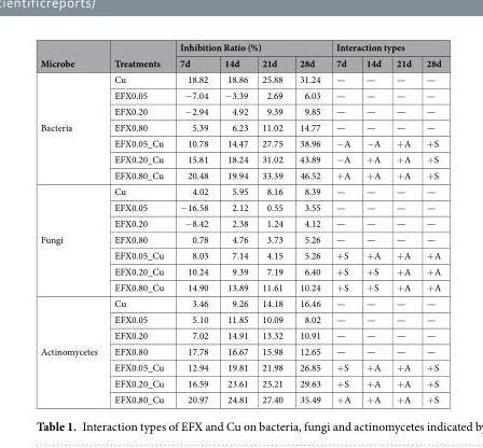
<table><thead><tr><td rowspan="2">Microbe</td><td rowspan="2">Treatments</td><td colspan="4">Inhibition Ratio (%)</td><td colspan="4">Interaction types</td></tr><tr><td>7d</td><td>14d</td><td>21d</td><td>28d</td><td>7d</td><td>14d</td><td>21d</td><td>28d</td></tr></thead><tbody><tr><td rowspan="7">Bacteria</td><td>Cu</td><td>18.82</td><td>18.86</td><td>25.88</td><td>31.24</td><td>—</td><td>—</td><td>—</td><td>—</td></tr><tr><td>EFX0.05</td><td>−7.04</td><td>−3.39</td><td>2.69</td><td>6.03</td><td>—</td><td>—</td><td>—</td><td>—</td></tr><tr><td>EFX0.20</td><td>−2.94</td><td>4.92</td><td>9.39</td><td>9.85</td><td>—</td><td>—</td><td>—</td><td>—</td></tr><tr><td>EFX0.80</td><td>5.39</td><td>6.23</td><td>11.02</td><td>14.77</td><td>—</td><td>—</td><td>—</td><td>—</td></tr><tr><td>EFX0.05_Cu</td><td>10.78</td><td>14.47</td><td>27.75</td><td>38.96</td><td>−A</td><td>−A</td><td>+A</td><td>+S</td></tr><tr><td>EFX0.20_Cu</td><td>15.81</td><td>18.24</td><td>31.02</td><td>43.89</td><td>−A</td><td>+A</td><td>+A</td><td>+S</td></tr><tr><td>EFX0.80_Cu</td><td>20.48</td><td>19.94</td><td>33.39</td><td>46.52</td><td>+A</td><td>+A</td><td>+A</td><td>+S</td></tr><tr><td rowspan="7">Fungi</td><td>Cu</td><td>4.02</td><td>5.95</td><td>8.16</td><td>8.39</td><td>—</td><td>—</td><td>—</td><td>—</td></tr><tr><td>EFX0.05</td><td>−16.58</td><td>2.12</td><td>0.55</td><td>3.55</td><td>—</td><td>—</td><td>—</td><td>—</td></tr><tr><td>EFX0.20</td><td>−8.42</td><td>2.38</td><td>1.24</td><td>4.12</td><td>—</td><td>—</td><td>—</td><td>—</td></tr><tr><td>EFX0.80</td><td>0.78</td><td>4.76</td><td>3.73</td><td>5.26</td><td>—</td><td>—</td><td>—</td><td>—</td></tr><tr><td>EFX0.05_Cu</td><td>8.03</td><td>7.14</td><td>4.15</td><td>5.26</td><td>+S</td><td>+A</td><td>+A</td><td>+A</td></tr><tr><td>EFX0.20_Cu</td><td>10.24</td><td>9.39</td><td>7.19</td><td>6.40</td><td>+S</td><td>+S</td><td>+A</td><td>+A</td></tr><tr><td>EFX0.80_Cu</td><td>14.90</td><td>13.89</td><td>11.61</td><td>10.24</td><td>+S</td><td>+S</td><td>+A</td><td>+A</td></tr><tr><td rowspan="7">Actinomycetes</td><td>Cu</td><td>3.46</td><td>9.26</td><td>14.18</td><td>16.46</td><td>—</td><td>—</td><td>—</td><td>—</td></tr><tr><td>EFX0.05</td><td>5.10</td><td>11.85</td><td>10.09</td><td>8.02</td><td>—</td><td>—</td><td>—</td><td>—</td></tr><tr><td>EFX0.20</td><td>7.02</td><td>14.91</td><td>13.32</td><td>10.91</td><td>—</td><td>—</td><td>—</td><td>—</td></tr><tr><td>EFX0.80</td><td>17.78</td><td>16.67</td><td>15.98</td><td>12.65</td><td>—</td><td>—</td><td>—</td><td>—</td></tr><tr><td>EFX0.05_Cu</td><td>12.94</td><td>19.81</td><td>21.98</td><td>26.85</td><td>+S</td><td>+A</td><td>+A</td><td>+S</td></tr><tr><td>EFX0.20_Cu</td><td>16.59</td><td>23.61</td><td>25.21</td><td>29.63</td><td>+S</td><td>+A</td><td>+A</td><td>+S</td></tr><tr><td>EFX0.80_Cu</td><td>20.97</td><td>24.81</td><td>27.40</td><td>35.49</td><td>+A</td><td>+A</td><td>+A</td><td>+S</td></tr></tbody></table>